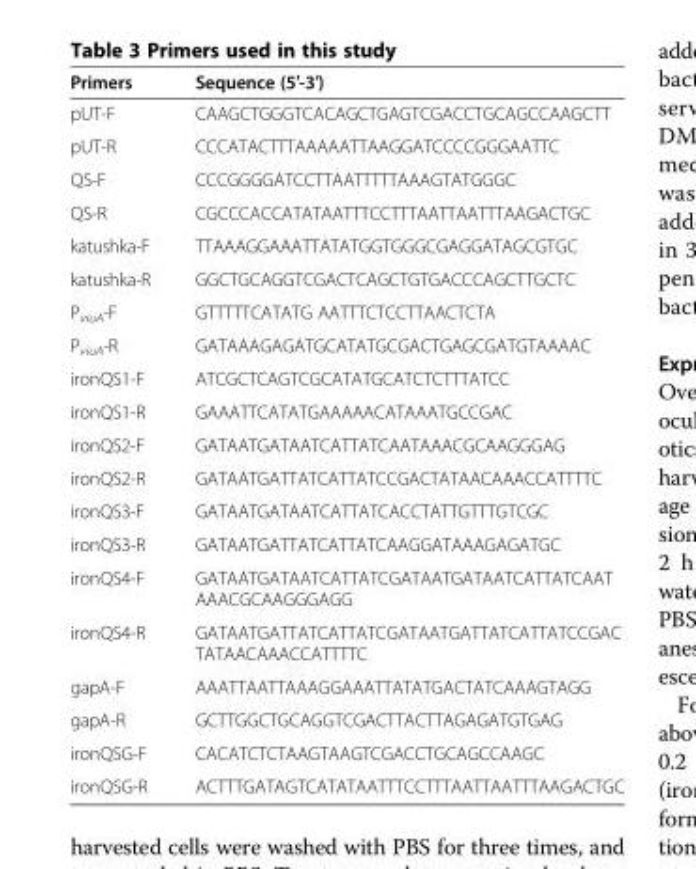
<table><thead><tr><td>Primers</td><td>Sequence (5′-3′)</td></tr></thead><tbody><tr><td>pUT-F</td><td>CAAGCTGGGTCACAGCTGAGTCGACCTGCAGCCAAGCTT</td></tr><tr><td>pUT-R</td><td>CCCATACTTTAAAAATTAAGGATCCCCGGGAATTC</td></tr><tr><td>QS-F</td><td>CCCGGGGATCCTTAATTTTTAAAGTATGGGC</td></tr><tr><td>QS-R</td><td>CGCCCACCATATAATTTCCTTTAATTAATTTAAGACTGC</td></tr><tr><td>katushka-F</td><td>TTAAAGGAAATTATATGGTGGGCGAGGATAGCGTGC</td></tr><tr><td>katushka-R</td><td>GGCTGCAGGTCGACTCAGCTGTGACCCAGCTTGCTC</td></tr><tr><td>P<sub>viuA</sub>-F</td><td>GTTTTTCATATG AATTTCTCCTTAACTCTA</td></tr><tr><td>P<sub>viuA</sub>-R</td><td>GATAAAGAGATGCATATGCGACTGAGCGATGTAAAAC</td></tr><tr><td>ironQS1-F</td><td>ATCGCTCAGTCGCATATGCATCTCTTTATCC</td></tr><tr><td>ironQS1-R</td><td>GAAATTCATATGAAAAACATAAATGCCGAC</td></tr><tr><td>ironQS2-F</td><td>GATAATGATAATCATTATCAATAAACGCAAGGGAG</td></tr><tr><td>ironQS2-R</td><td>GATAATGATTATCATTATCCGACTATAACAAACCATTTTC</td></tr><tr><td>ironQS3-F</td><td>GATAATGATAATCATTATCACCTATTGTTTGTCGC</td></tr><tr><td>ironQS3-R</td><td>GATAATGATTATCATTATCAAGGATAAAGAGATGC</td></tr><tr><td>ironQS4-F</td><td>GATAATGATAATCATTATCGATAATGATAATCATTATCAAT AAACGCAAGGGAGG</td></tr><tr><td>ironQS4-R</td><td>GATAATGATTATCATTATCGATAATGATTATCATTATCCGAC TATAACAAACCATTTTC</td></tr><tr><td>gapA-F</td><td>AAATTAATTAAAGGAAATTATATGACTATCAAAGTAGG</td></tr><tr><td>gapA-R</td><td>GCTTGGCTGCAGGTCGACTTACTTAGAGATGTGAG</td></tr><tr><td>ironQSG-F</td><td>CACATCTCTAAGTAAGTCGACCTGCAGCCAAGC</td></tr><tr><td>ironQSG-R</td><td>ACTTTGATAGTCATATAATTTCCTTTAATTAATTTAAGACTGC</td></tr></tbody></table>